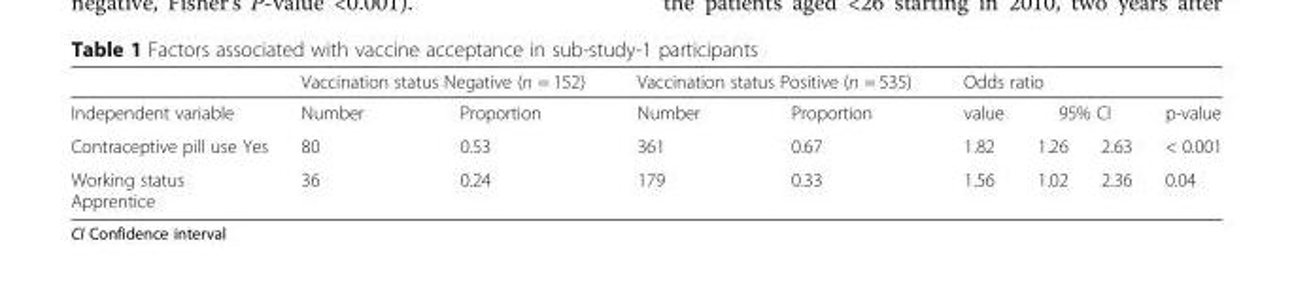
<table><thead><tr><td rowspan="3">Independent variable Contraceptive pill use Yes</td><td colspan="2">Vaccination status Negative (n = 152)</td><td colspan="2">Vaccination status Positive (n = 535)</td><td colspan="4">Odds ratio</td></tr><tr><td rowspan="2">Number 80</td><td rowspan="2">Proportion 0.53</td><td rowspan="2">Number 361</td><td rowspan="2">Proportion 0.67</td><td rowspan="2">value 1.82</td><td colspan="2">95% CI</td><td rowspan="2">p-value &lt; 0.001</td></tr><tr><td>1.26</td><td>2.63</td></tr></thead><tbody><tr><td>Working status Apprentice</td><td>36</td><td>0.24</td><td>179</td><td>0.33</td><td>1.56</td><td>1.02</td><td>2.36</td><td>0.04</td></tr></tbody></table>